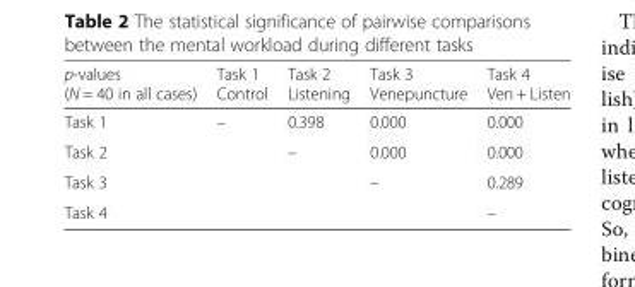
<table><thead><tr><td>p-values (N = 40 in all cases)</td><td>Task 1 Control</td><td>Task 2 Listening</td><td>Task 3 Venepuncture</td><td>Task 4 Ven + Listen</td></tr></thead><tbody><tr><td>Task 1</td><td>–</td><td>0.398</td><td>0.000</td><td>0.000</td></tr><tr><td>Task 2</td><td></td><td>–</td><td>0.000</td><td>0.000</td></tr><tr><td>Task 3</td><td></td><td></td><td>–</td><td>0.289</td></tr><tr><td>Task 4</td><td></td><td></td><td></td><td>–</td></tr></tbody></table>